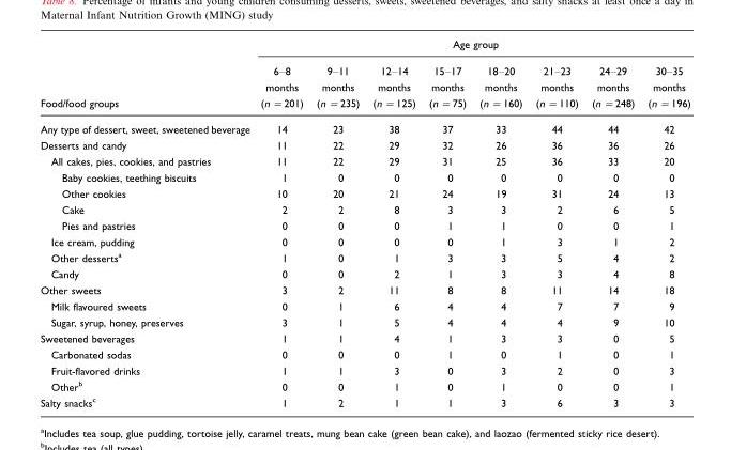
<table><thead><tr><td rowspan="2">Food/food groups</td><td colspan="8">Age group</td></tr><tr><td>6–8 months (n =201)</td><td>9–11 months (n =235)</td><td>12–14 months (n =125)</td><td>15–17 months (n =75)</td><td>18–20 months (n =160)</td><td>21–23 months (n =110)</td><td>24–29 months (n =248)</td><td>30–35 months (n =196)</td></tr></thead><tbody><tr><td>Any type of dessert, sweet, sweetened beverage</td><td>14</td><td>23</td><td>38</td><td>37</td><td>33</td><td>44</td><td>44</td><td>42</td></tr><tr><td>Desserts and candy</td><td>11</td><td>22</td><td>29</td><td>32</td><td>26</td><td>36</td><td>36</td><td>26</td></tr><tr><td>All cakes, pies, cookies, and pastries</td><td>11</td><td>22</td><td>29</td><td>31</td><td>25</td><td>36</td><td>33</td><td>20</td></tr><tr><td>Baby cookies, teething biscuits</td><td>1</td><td>0</td><td>0</td><td>0</td><td>0</td><td>0</td><td>0</td><td>0</td></tr><tr><td>Other cookies</td><td>10</td><td>20</td><td>21</td><td>24</td><td>19</td><td>31</td><td>24</td><td>13</td></tr><tr><td>Cake</td><td>2</td><td>2</td><td>8</td><td>3</td><td>3</td><td>2</td><td>6</td><td>5</td></tr><tr><td>Pies and pastries</td><td>0</td><td>0</td><td>0</td><td>1</td><td>1</td><td>0</td><td>0</td><td>1</td></tr><tr><td>Ice cream, pudding</td><td>0</td><td>0</td><td>0</td><td>0</td><td>1</td><td>3</td><td>1</td><td>2</td></tr><tr><td>Other desserts<sup>a</sup></td><td>1</td><td>0</td><td>1</td><td>3</td><td>3</td><td>5</td><td>4</td><td>2</td></tr><tr><td>Candy</td><td>0</td><td>0</td><td>2</td><td>1</td><td>3</td><td>3</td><td>4</td><td>8</td></tr><tr><td>Other sweets</td><td>3</td><td>2</td><td>11</td><td>8</td><td>8</td><td>11</td><td>14</td><td>18</td></tr><tr><td>Milk flavoured sweets</td><td>0</td><td>1</td><td>6</td><td>4</td><td>4</td><td>7</td><td>7</td><td>9</td></tr><tr><td>Sugar, syrup, honey, preserves</td><td>3</td><td>1</td><td>5</td><td>4</td><td>4</td><td>4</td><td>9</td><td>10</td></tr><tr><td>Sweetened beverages</td><td>1</td><td>1</td><td>4</td><td>1</td><td>3</td><td>3</td><td>0</td><td>5</td></tr><tr><td>Carbonated sodas</td><td>0</td><td>0</td><td>0</td><td>1</td><td>0</td><td>1</td><td>0</td><td>1</td></tr><tr><td>Fruit-flavored drinks</td><td>1</td><td>1</td><td>3</td><td>0</td><td>3</td><td>2</td><td>0</td><td>3</td></tr><tr><td>Other<sup>b</sup></td><td>0</td><td>0</td><td>1</td><td>0</td><td>1</td><td>0</td><td>0</td><td>1</td></tr><tr><td>Salty snacks<sup>c</sup></td><td>1</td><td>2</td><td>1</td><td>1</td><td>3</td><td>6</td><td>3</td><td>3</td></tr></tbody></table>